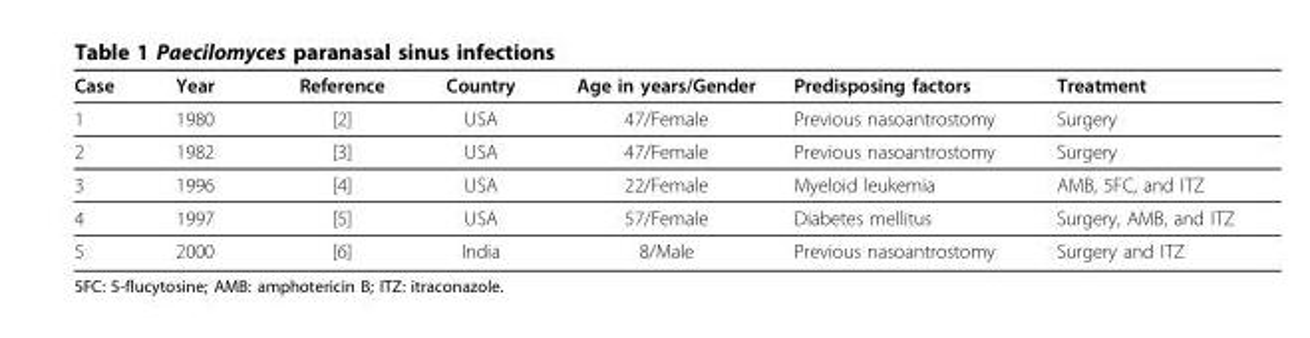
<table><thead><tr><td>Case</td><td>Year</td><td>Reference</td><td>Country</td><td>Age in years/Gender</td><td>Predisposing factors</td><td>Treatment</td></tr></thead><tbody><tr><td>1</td><td>1980</td><td>[2]</td><td>USA</td><td>47/Female</td><td>Previous nasoantrostomy</td><td>Surgery</td></tr><tr><td>2</td><td>1982</td><td>[3]</td><td>USA</td><td>47/Female</td><td>Previous nasoantrostomy</td><td>Surgery</td></tr><tr><td>3</td><td>1996</td><td>[4]</td><td>USA</td><td>22/Female</td><td>Myeloid leukemia</td><td>AMB, 5FC, and ITZ</td></tr><tr><td>4</td><td>1997</td><td>[5]</td><td>USA</td><td>57/Female</td><td>Diabetes mellitus</td><td>Surgery, AMB, and ITZ</td></tr><tr><td>5</td><td>2000</td><td>[6]</td><td>India</td><td>8/Male</td><td>Previous nasoantrostomy</td><td>Surgery and ITZ</td></tr></tbody></table>